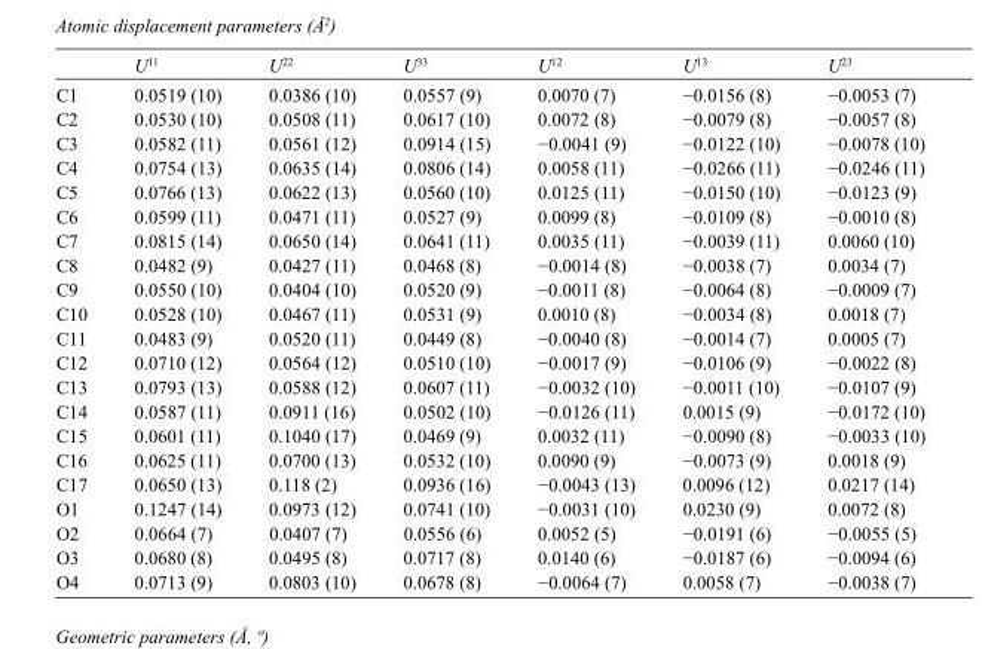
<table><thead><tr><td></td><td>U<sup>11</sup></td><td>U<sup>22</sup></td><td>U<sup>33</sup></td><td>U<sup>12</sup></td><td>U<sup>13</sup></td><td>U<sup>23</sup></td></tr></thead><tbody><tr><td>C1</td><td>0.0519 (10)</td><td>0.0386 (10)</td><td>0.0557 (9)</td><td>0.0070 (7)</td><td>−0.0156 (8)</td><td>−0.0053 (7)</td></tr><tr><td>C2</td><td>0.0530 (10)</td><td>0.0508 (11)</td><td>0.0617 (10)</td><td>0.0072 (8)</td><td>−0.0079 (8)</td><td>−0.0057 (8)</td></tr><tr><td>C3</td><td>0.0582 (11)</td><td>0.0561 (12)</td><td>0.0914 (15)</td><td>−0.0041 (9)</td><td>−0.0122 (10)</td><td>−0.0078 (10)</td></tr><tr><td>C4</td><td>0.0754 (13)</td><td>0.0635 (14)</td><td>0.0806 (14)</td><td>0.0058 (11)</td><td>−0.0266 (11)</td><td>−0.0246 (11)</td></tr><tr><td>C5</td><td>0.0766 (13)</td><td>0.0622 (13)</td><td>0.0560 (10)</td><td>0.0125 (11)</td><td>−0.0150 (10)</td><td>−0.0123 (9)</td></tr><tr><td>C6</td><td>0.0599 (11)</td><td>0.0471 (11)</td><td>0.0527 (9)</td><td>0.0099 (8)</td><td>−0.0109 (8)</td><td>−0.0010 (8)</td></tr><tr><td>C7</td><td>0.0815 (14)</td><td>0.0650 (14)</td><td>0.0641 (11)</td><td>0.0035 (11)</td><td>−0.0039 (11)</td><td>0.0060 (10)</td></tr><tr><td>C8</td><td>0.0482 (9)</td><td>0.0427 (11)</td><td>0.0468 (8)</td><td>−0.0014 (8)</td><td>−0.0038 (7)</td><td>0.0034 (7)</td></tr><tr><td>C9</td><td>0.0550 (10)</td><td>0.0404 (10)</td><td>0.0520 (9)</td><td>−0.0011 (8)</td><td>−0.0064 (8)</td><td>−0.0009 (7)</td></tr><tr><td>C10</td><td>0.0528 (10)</td><td>0.0467 (11)</td><td>0.0531 (9)</td><td>0.0010 (8)</td><td>−0.0034 (8)</td><td>0.0018 (7)</td></tr><tr><td>C11</td><td>0.0483 (9)</td><td>0.0520 (11)</td><td>0.0449 (8)</td><td>−0.0040 (8)</td><td>−0.0014 (7)</td><td>0.0005 (7)</td></tr><tr><td>C12</td><td>0.0710 (12)</td><td>0.0564 (12)</td><td>0.0510 (10)</td><td>−0.0017 (9)</td><td>−0.0106 (9)</td><td>−0.0022 (8)</td></tr><tr><td>C13</td><td>0.0793 (13)</td><td>0.0588 (12)</td><td>0.0607 (11)</td><td>−0.0032 (10)</td><td>−0.0011 (10)</td><td>−0.0107 (9)</td></tr><tr><td>C14</td><td>0.0587 (11)</td><td>0.0911 (16)</td><td>0.0502 (10)</td><td>−0.0126 (11)</td><td>0.0015 (9)</td><td>−0.0172 (10)</td></tr><tr><td>C15</td><td>0.0601 (11)</td><td>0.1040 (17)</td><td>0.0469 (9)</td><td>0.0032 (11)</td><td>−0.0090 (8)</td><td>−0.0033 (10)</td></tr><tr><td>C16</td><td>0.0625 (11)</td><td>0.0700 (13)</td><td>0.0532 (10)</td><td>0.0090 (9)</td><td>−0.0073 (9)</td><td>0.0018 (9)</td></tr><tr><td>C17</td><td>0.0650 (13)</td><td>0.118 (2)</td><td>0.0936 (16)</td><td>−0.0043 (13)</td><td>0.0096 (12)</td><td>0.0217 (14)</td></tr><tr><td>O1</td><td>0.1247 (14)</td><td>0.0973 (12)</td><td>0.0741 (10)</td><td>−0.0031 (10)</td><td>0.0230 (9)</td><td>0.0072 (8)</td></tr><tr><td>O2</td><td>0.0664 (7)</td><td>0.0407 (7)</td><td>0.0556 (6)</td><td>0.0052 (5)</td><td>−0.0191 (6)</td><td>−0.0055 (5)</td></tr><tr><td>O3</td><td>0.0680 (8)</td><td>0.0495 (8)</td><td>0.0717 (8)</td><td>0.0140 (6)</td><td>−0.0187 (6)</td><td>−0.0094 (6)</td></tr><tr><td>O4</td><td>0.0713 (9)</td><td>0.0803 (10)</td><td>0.0678 (8)</td><td>−0.0064 (7)</td><td>0.0058 (7)</td><td>−0.0038 (7)</td></tr></tbody></table>